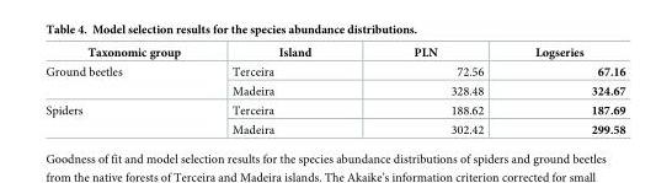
<table><thead><tr><td>Taxonomic group</td><td>Island</td><td>PLN</td><td>Logseries</td></tr></thead><tbody><tr><td rowspan="2">Ground beetles</td><td>Terceira</td><td>72.56</td><td>67.16</td></tr><tr><td>Madeira</td><td>328.48</td><td>324.67</td></tr><tr><td rowspan="2">Spiders</td><td>Terceira</td><td>188.62</td><td>187.69</td></tr><tr><td>Madeira</td><td>302.42</td><td>299.58</td></tr></tbody></table>